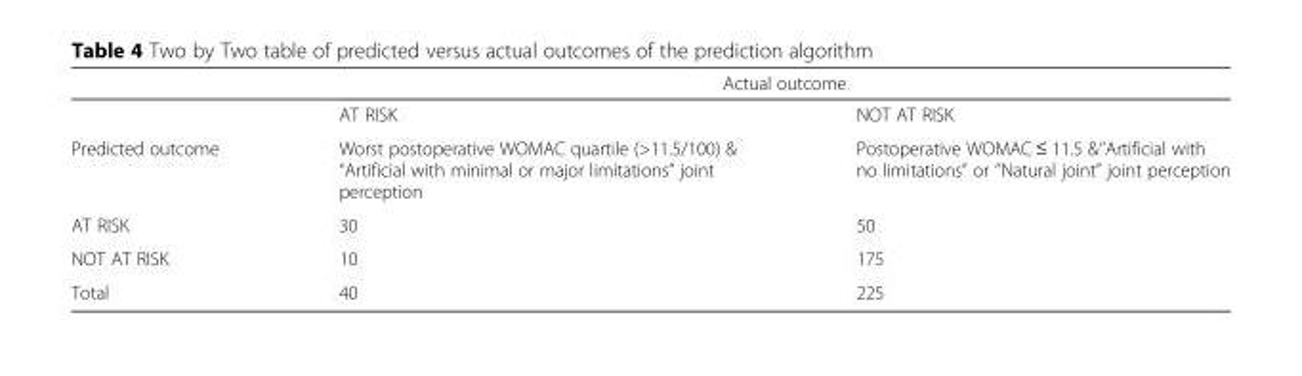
<table><thead><tr><td rowspan="2"></td><td colspan="2">Actual outcome</td></tr><tr><td>AT RISK</td><td>NOT AT RISK</td></tr></thead><tbody><tr><td>Predicted outcome</td><td>Worst postoperative WOMAC quartile (&gt;11.5/100) &amp; “Artificial with minimal or major limitations” joint perception</td><td>Postoperative WOMAC ≤ 11.5 &amp;‘’Artificial with no limitations” or ‘’Natural joint” joint perception</td></tr><tr><td>AT RISK</td><td>30</td><td>50</td></tr><tr><td>NOT AT RISK</td><td>10</td><td>175</td></tr><tr><td>Total</td><td>40</td><td>225</td></tr></tbody></table>